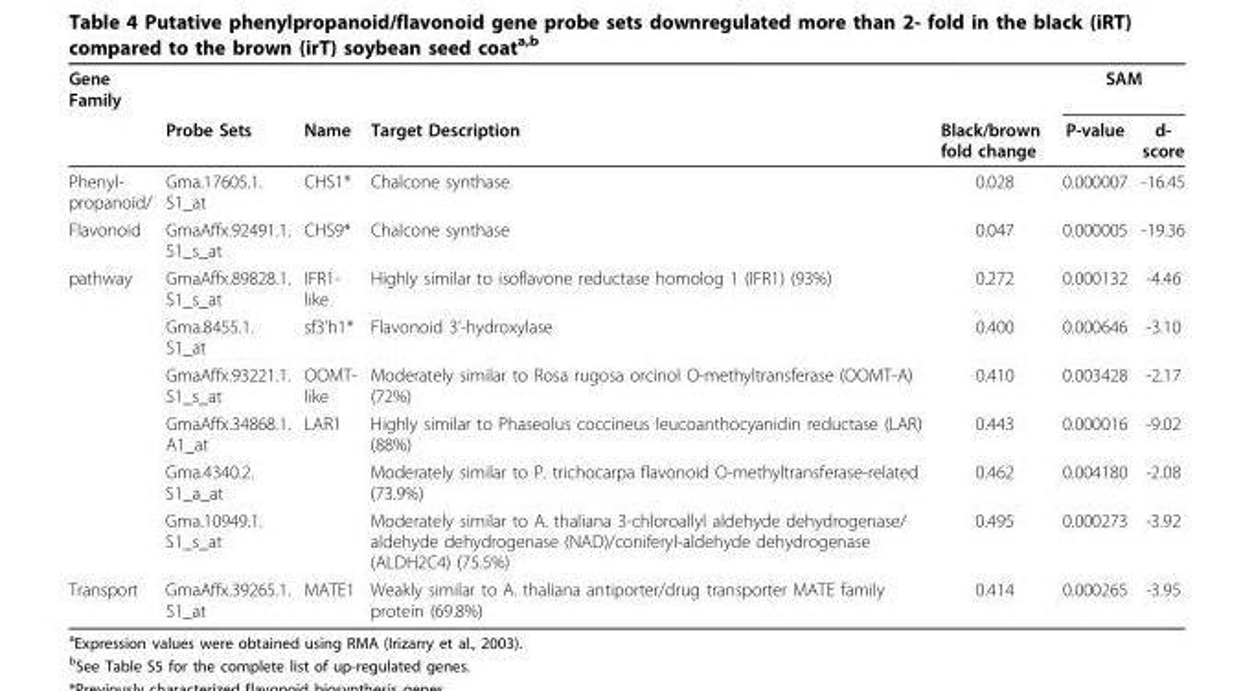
<table><thead><tr><td rowspan="2">Gene Family</td><td rowspan="2">Probe Sets</td><td rowspan="2">Name</td><td rowspan="2">Target Description</td><td rowspan="2">Black/brown fold change</td><td colspan="2">SAM</td></tr><tr><td>P-value</td><td>d- score</td></tr></thead><tbody><tr><td>Phenyl- propanoid/</td><td>Gma.17605.1. S1_at</td><td>CHS1*</td><td>Chalcone synthase</td><td>0.028</td><td>0.000007</td><td>-16.45</td></tr><tr><td>Flavonoid</td><td>GmaAffx.92491.1. S1_s_at</td><td>CHS9*</td><td>Chalcone synthase</td><td>0.047</td><td>0.000005</td><td>-19.36</td></tr><tr><td rowspan="6">pathway</td><td>GmaAffx.89828.1. S1_s_at</td><td>IFR1- like</td><td>Highly similar to isoflavone reductase homolog 1 (IFR1) (93%)</td><td>0.272</td><td>0.000132</td><td>-4.46</td></tr><tr><td>Gma.8455.1. S1_at</td><td>sf3’h1*</td><td>Flavonoid 3’-hydroxylase</td><td>0.400</td><td>0.000646</td><td>-3.10</td></tr><tr><td>GmaAffx.93221.1. S1_s_at</td><td>OOMT- like</td><td>Moderately similar to Rosa rugosa orcinol O-methyltransferase (OOMT-A) (72%)</td><td>0.410</td><td>0.003428</td><td>-2.17</td></tr><tr><td>GmaAffx.34868.1. A1_at</td><td>LAR1</td><td>Highly similar to Phaseolus coccineus leucoanthocyanidin reductase (LAR) (88%)</td><td>0.443</td><td>0.000016</td><td>-9.02</td></tr><tr><td>Gma.4340.2. S1_a_at</td><td></td><td>Moderately similar to P. trichocarpa flavonoid O-methyltransferase-related (73.9%)</td><td>0.462</td><td>0.004180</td><td>-2.08</td></tr><tr><td>Gma.10949.1. S1_s_at</td><td></td><td>Moderately similar to A. thaliana 3-chloroallyl aldehyde dehydrogenase/ aldehyde dehydrogenase (NAD)/coniferyl-aldehyde dehydrogenase (ALDH2C4) (75.5%)</td><td>0.495</td><td>0.000273</td><td>-3.92</td></tr><tr><td>Transport</td><td>GmaAffx.39265.1. S1_at</td><td>MATE1</td><td>Weakly similar to A. thaliana antiporter/drug transporter MATE family protein (69.8%)</td><td>0.414</td><td>0.000265</td><td>-3.95</td></tr></tbody></table>